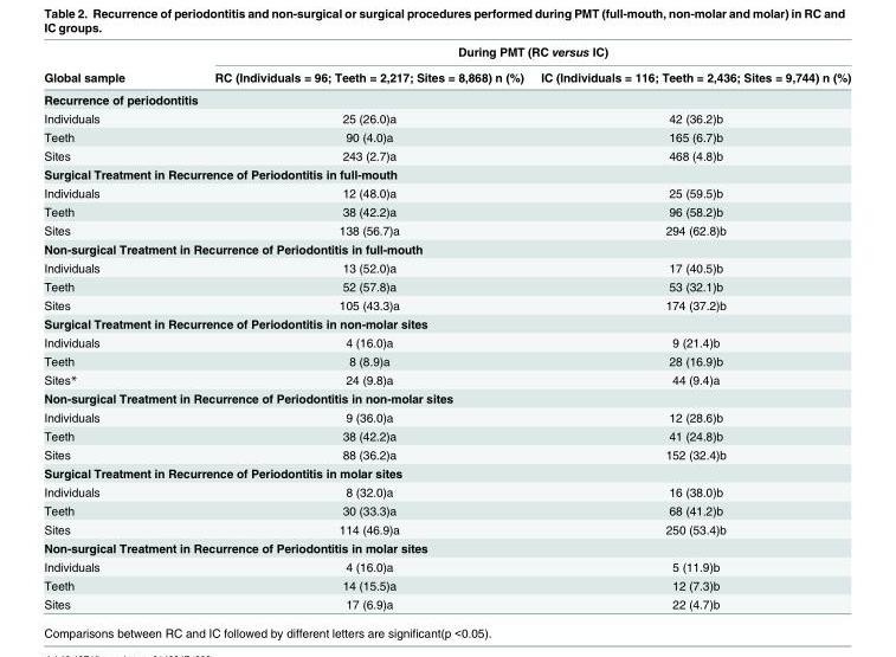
<table><thead><tr><td rowspan="2">Global sample</td><td colspan="2">During PMT (RC versus IC)</td></tr><tr><td>RC (Individuals = 96; Teeth = 2,217; Sites = 8,868) n (%)</td><td>IC (Individuals = 116; Teeth = 2,436; Sites = 9,744) n (%)</td></tr></thead><tbody><tr><td colspan="3">Recurrence of periodontitis</td></tr><tr><td>Individuals</td><td>25 (26.0)a</td><td>42 (36.2)b</td></tr><tr><td>Teeth</td><td>90 (4.0)a</td><td>165 (6.7)b</td></tr><tr><td>Sites</td><td>243 (2.7)a</td><td>468 (4.8)b</td></tr><tr><td colspan="3">Surgical Treatment in Recurrence of Periodontitis in full-mouth</td></tr><tr><td>Individuals</td><td>12 (48.0)a</td><td>25 (59.5)b</td></tr><tr><td>Teeth</td><td>38 (42.2)a</td><td>96 (58.2)b</td></tr><tr><td>Sites</td><td>138 (56.7)a</td><td>294 (62.8)b</td></tr><tr><td colspan="3">Non-surgical Treatment in Recurrence of Periodontitis in full-mouth</td></tr><tr><td>Individuals</td><td>13 (52.0)a</td><td>17 (40.5)b</td></tr><tr><td>Teeth</td><td>52 (57.8)a</td><td>53 (32.1)b</td></tr><tr><td>Sites</td><td>105 (43.3)a</td><td>174 (37.2)b</td></tr><tr><td colspan="3">Surgical Treatment in Recurrence of Periodontitis in non-molar sites</td></tr><tr><td>Individuals</td><td>4 (16.0)a</td><td>9 (21.4)b</td></tr><tr><td>Teeth</td><td>8 (8.9)a</td><td>28 (16.9)b</td></tr><tr><td>Sites*</td><td>24 (9.8)a</td><td>44 (9.4)a</td></tr><tr><td colspan="3">Non-surgical Treatment in Recurrence of Periodontitis in non-molar sites</td></tr><tr><td>Individuals</td><td>9 (36.0)a</td><td>12 (28.6)b</td></tr><tr><td>Teeth</td><td>38 (42.2)a</td><td>41 (24.8)b</td></tr><tr><td>Sites</td><td>88 (36.2)a</td><td>152 (32.4)b</td></tr><tr><td colspan="3">Surgical Treatment in Recurrence of Periodontitis in molar sites</td></tr><tr><td>Individuals</td><td>8 (32.0)a</td><td>16 (38.0)b</td></tr><tr><td>Teeth</td><td>30 (33.3)a</td><td>68 (41.2)b</td></tr><tr><td>Sites</td><td>114 (46.9)a</td><td>250 (53.4)b</td></tr><tr><td colspan="3">Non-surgical Treatment in Recurrence of Periodontitis in molar sites</td></tr><tr><td>Individuals</td><td>4 (16.0)a</td><td>5 (11.9)b</td></tr><tr><td>Teeth</td><td>14 (15.5)a</td><td>12 (7.3)b</td></tr><tr><td>Sites</td><td>17 (6.9)a</td><td>22 (4.7)b</td></tr></tbody></table>